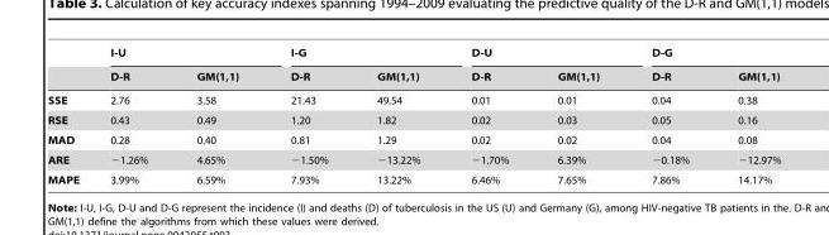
<table><thead><tr><td rowspan="2"></td><td colspan="2">I-U</td><td colspan="2">I-G</td><td colspan="2">D-U</td><td colspan="2">D-G</td></tr><tr><td>D-R</td><td>GM(1,1)</td><td>D-R</td><td>GM(1,1)</td><td>D-R</td><td>GM(1,1)</td><td>D-R</td><td>GM(1,1)</td></tr></thead><tbody><tr><td>SSE</td><td>2.76</td><td>3.58</td><td>21.43</td><td>49.54</td><td>0.01</td><td>0.01</td><td>0.04</td><td>0.38</td></tr><tr><td>RSE</td><td>0.43</td><td>0.49</td><td>1.20</td><td>1.82</td><td>0.02</td><td>0.03</td><td>0.05</td><td>0.16</td></tr><tr><td>MAD</td><td>0.28</td><td>0.40</td><td>0.81</td><td>1.29</td><td>0.02</td><td>0.02</td><td>0.04</td><td>0.08</td></tr><tr><td>ARE</td><td>−1.26%</td><td>4.65%</td><td>−1.50%</td><td>−13.22%</td><td>−1.70%</td><td>6.39%</td><td>−0.18%</td><td>−12.97%</td></tr><tr><td>MAPE</td><td>3.99%</td><td>6.59%</td><td>7.93%</td><td>13.22%</td><td>6.46%</td><td>7.65%</td><td>7.86%</td><td>14.17%</td></tr></tbody></table>